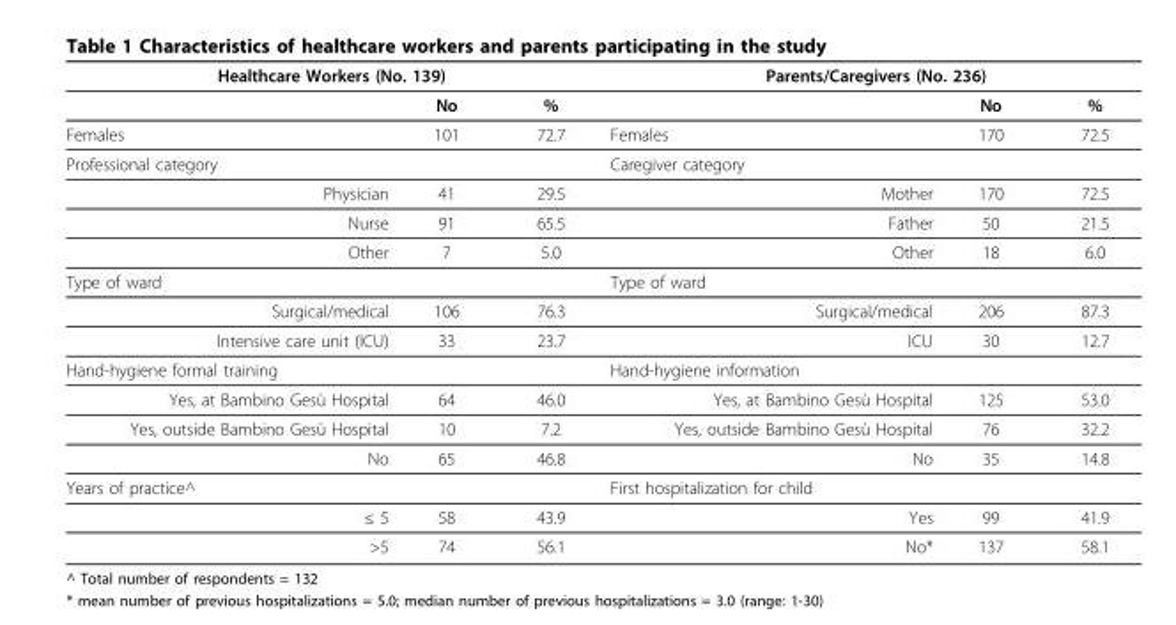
<table><thead><tr><td colspan="3">Healthcare Workers (No. 139)</td><td colspan="3">Parents/Caregivers (No. 236)</td></tr><tr><td></td><td>No</td><td>%</td><td></td><td>No</td><td>%</td></tr></thead><tbody><tr><td>Females</td><td>101</td><td>72.7</td><td>Females</td><td>170</td><td>72.5</td></tr><tr><td>Professional category</td><td></td><td></td><td>Caregiver category</td><td></td><td></td></tr><tr><td>Physician</td><td>41</td><td>29.5</td><td>Mother</td><td>170</td><td>72.5</td></tr><tr><td>Nurse</td><td>91</td><td>65.5</td><td>Father</td><td>50</td><td>21.5</td></tr><tr><td>Other</td><td>7</td><td>5.0</td><td>Other</td><td>18</td><td>6.0</td></tr><tr><td>Type of ward</td><td></td><td></td><td>Type of ward</td><td></td><td></td></tr><tr><td>Surgical/medical</td><td>106</td><td>76.3</td><td>Surgical/medical</td><td>206</td><td>87.3</td></tr><tr><td>Intensive care unit (ICU)</td><td>33</td><td>23.7</td><td>ICU</td><td>30</td><td>12.7</td></tr><tr><td>Hand-hygiene formal training</td><td></td><td></td><td>Hand-hygiene information</td><td></td><td></td></tr><tr><td>Yes, at Bambino Gesù Hospital</td><td>64</td><td>46.0</td><td>Yes, at Bambino Gesù Hospital</td><td>125</td><td>53.0</td></tr><tr><td>Yes, outside Bambino Gesù Hospital</td><td>10</td><td>7.2</td><td>Yes, outside Bambino Gesù Hospital</td><td>76</td><td>32.2</td></tr><tr><td>No</td><td>65</td><td>46.8</td><td>No</td><td>35</td><td>14.8</td></tr><tr><td>Years of practice^</td><td></td><td></td><td>First hospitalization for child</td><td></td><td></td></tr><tr><td>≤ 5</td><td>58</td><td>43.9</td><td>Yes</td><td>99</td><td>41.9</td></tr><tr><td>&gt;5</td><td>74</td><td>56.1</td><td>No*</td><td>137</td><td>58.1</td></tr></tbody></table>